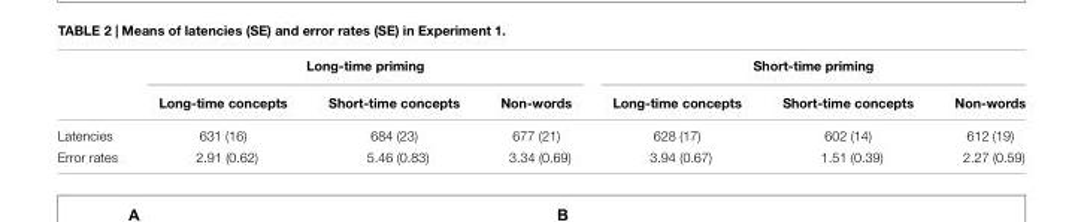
<table><thead><tr><td rowspan="2"></td><td colspan="3">Long-time priming</td><td colspan="3">Short-time priming</td></tr><tr><td>Long-time concepts</td><td>Short-time concepts</td><td>Non-words</td><td>Long-time concepts</td><td>Short-time concepts</td><td>Non-words</td></tr></thead><tbody><tr><td>Latencies</td><td>631 (16)</td><td>684 (23)</td><td>677 (21)</td><td>628 (17)</td><td>602 (14)</td><td>612 (19)</td></tr><tr><td>Error rates</td><td>2.91 (0.62)</td><td>5.46 (0.83)</td><td>3.34 (0.69)</td><td>3.94 (0.67)</td><td>1.51 (0.39)</td><td>2.27 (0.59)</td></tr></tbody></table>